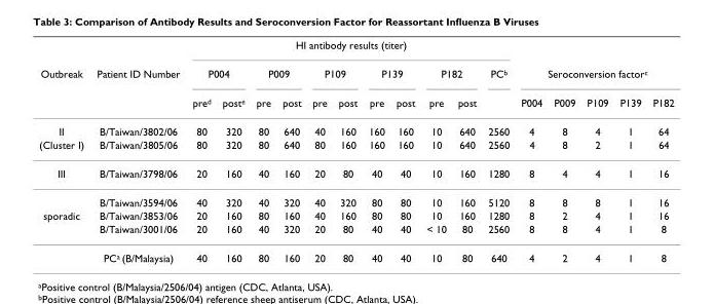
<table><thead><tr><td rowspan="3">Outbreak</td><td rowspan="3">Patient ID Number</td><td colspan="11">HI antibody results (titer)</td><td></td><td></td><td></td><td></td><td></td></tr><tr><td colspan="2">P004</td><td colspan="2">P009</td><td colspan="2">P109</td><td colspan="2">P139</td><td colspan="2">P182</td><td rowspan="2">PC<sup>b</sup></td><td colspan="5">Seroconversion factor<sup>c</sup></td></tr><tr><td>pre<sup>d</sup></td><td>post<sup>e</sup></td><td>pre</td><td>post</td><td>pre</td><td>post</td><td>pre</td><td>post</td><td>pre</td><td>post</td><td>P004</td><td>P009</td><td>P109</td><td>P139</td><td>P182</td></tr></thead><tbody><tr><td>II</td><td>B/Taiwan/3802/06</td><td>80</td><td>320</td><td>80</td><td>640</td><td>40</td><td>160</td><td>160</td><td>160</td><td>10</td><td>640</td><td>2560</td><td>4</td><td>8</td><td>4</td><td>1</td><td>64</td></tr><tr><td>(Cluster I)</td><td>B/Taiwan/3805/06</td><td>80</td><td>320</td><td>80</td><td>640</td><td>80</td><td>160</td><td>160</td><td>160</td><td>10</td><td>640</td><td>2560</td><td>4</td><td>8</td><td>2</td><td>1</td><td>64</td></tr><tr><td rowspan="2">III</td><td>B/Taiwan/3798/06</td><td>20</td><td>160</td><td>40</td><td>160</td><td>20</td><td>80</td><td>40</td><td>40</td><td>10</td><td>160</td><td>1280</td><td>8</td><td>4</td><td>4</td><td>1</td><td>16</td></tr><tr><td>B/Taiwan/3594/06</td><td>40</td><td>320</td><td>40</td><td>320</td><td>40</td><td>320</td><td>80</td><td>80</td><td>10</td><td>160</td><td>5120</td><td>8</td><td>8</td><td>8</td><td>1</td><td>16</td></tr><tr><td rowspan="3">sporadic</td><td>B/Taiwan/3853/06</td><td>20</td><td>160</td><td>80</td><td>160</td><td>40</td><td>160</td><td>80</td><td>80</td><td>10</td><td>160</td><td>1280</td><td>8</td><td>2</td><td>4</td><td>1</td><td>16</td></tr><tr><td>B/Taiwan/3001/06</td><td>20</td><td>160</td><td>40</td><td>320</td><td>20</td><td>80</td><td>40</td><td>40</td><td>&lt; 10</td><td>80</td><td>2560</td><td>8</td><td>8</td><td>4</td><td>1</td><td>8</td></tr><tr><td>PC<sup>a</sup> (B/Malaysia)</td><td>40</td><td>160</td><td>80</td><td>160</td><td>20</td><td>80</td><td>40</td><td>40</td><td>10</td><td>80</td><td>640</td><td>4</td><td>2</td><td>4</td><td>1</td><td>8</td></tr></tbody></table>